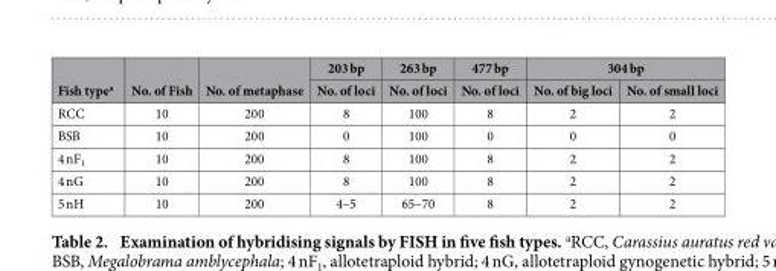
<table><thead><tr><td rowspan="2">Fish type<sup>a</sup></td><td rowspan="2">No. of Fish</td><td rowspan="2">No. of metaphase</td><td rowspan="2">203 bp No. of loci</td><td rowspan="2">263 bp No. of loci</td><td rowspan="2">477 bp No. of loci</td><td colspan="2">304 bp</td></tr><tr><td>No. of big loci</td><td>No. of small loci</td></tr></thead><tbody><tr><td>RCC</td><td>10</td><td>200</td><td>8</td><td>100</td><td>8</td><td>2</td><td>2</td></tr><tr><td>BSB</td><td>10</td><td>200</td><td>0</td><td>100</td><td>0</td><td>0</td><td>0</td></tr><tr><td>4 nF<sub>1</sub></td><td>10</td><td>200</td><td>8</td><td>100</td><td>8</td><td>2</td><td>2</td></tr><tr><td>4 nG</td><td>10</td><td>200</td><td>8</td><td>100</td><td>8</td><td>2</td><td>2</td></tr><tr><td>5 nH</td><td>10</td><td>200</td><td>4–5</td><td>65–70</td><td>8</td><td>2</td><td>2</td></tr></tbody></table>